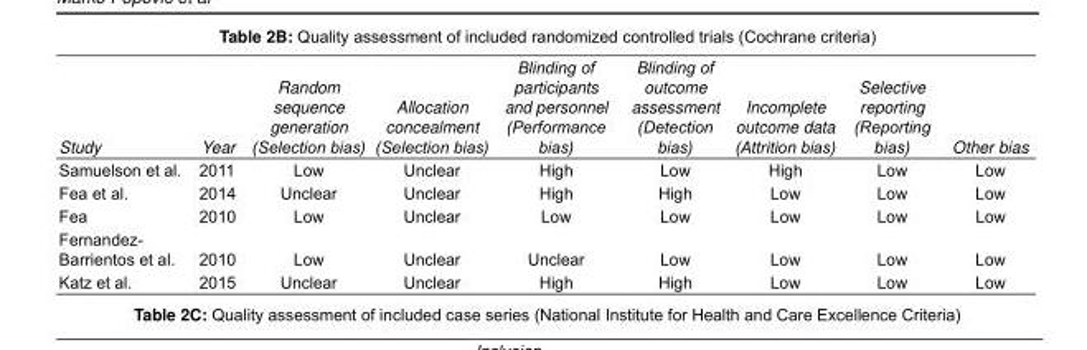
<table><tbody><tr><td>Study</td><td>Year</td><td>Random sequence generation (Selection bias)</td><td>Allocation concealment (Selection bias)</td><td>Blinding of participants and personnel (Performance bias)</td><td>Blinding of outcome assessment (Detection bias)</td><td>Incomplete outcome data (Attrition bias)</td><td>Selective reporting (Reporting bias)</td><td>Other bias</td></tr><tr><td>Samuelson et al.</td><td>2011</td><td>Low</td><td>Unclear</td><td>High</td><td>Low</td><td>High</td><td>Low</td><td>Low</td></tr><tr><td>Fea et al.</td><td>2014</td><td>Unclear</td><td>Unclear</td><td>High</td><td>High</td><td>Low</td><td>Low</td><td>Low</td></tr><tr><td>Fea</td><td>2010</td><td>Low</td><td>Unclear</td><td>Low</td><td>Low</td><td>Low</td><td>Low</td><td>Low</td></tr><tr><td>Fernandez- Barrientos et al.</td><td>2010</td><td>Low</td><td>Unclear</td><td>Unclear</td><td>Low</td><td>Low</td><td>Low</td><td>Low</td></tr><tr><td>Katz et al.</td><td>2015</td><td>Unclear</td><td>Unclear</td><td>High</td><td>High</td><td>Low</td><td>Low</td><td>Low</td></tr></tbody></table>